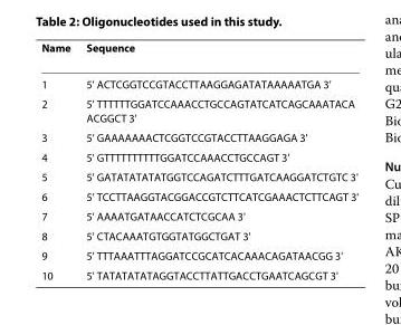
<table><thead><tr><td>Name</td><td>Sequence</td></tr></thead><tbody><tr><td>1</td><td>5&#x27; ACTCGGTCCGTACCTTAAGGAGATATAAAAATGA 3&#x27;</td></tr><tr><td>2</td><td>5&#x27; TTTTTTGGATCCAAACCTGCCAGTATCATCAGCAAATACA ACGGCT 3&#x27;</td></tr><tr><td>3</td><td>5&#x27; GAAAAAAACTCGGTCCGTACCTTAAGGAGA 3&#x27;</td></tr><tr><td>4</td><td>5&#x27; GTTTTTTTTTTGGATCCAAACCTGCCAGT 3&#x27;</td></tr><tr><td>5</td><td>5&#x27; GATATATATATGGTCCAGATCTTTGATCAAGGATCTGTC 3&#x27;</td></tr><tr><td>6</td><td>5&#x27; TCCTTAAGGTACGGACCGTCTTCATCGAAACTCTTCAGT 3&#x27;</td></tr><tr><td>7</td><td>5&#x27; AAAATGATAACCATCTCGCAA 3&#x27;</td></tr><tr><td>8</td><td>5&#x27; CTACAAATGTGGTATGGCTGAT 3&#x27;</td></tr><tr><td>9</td><td>5&#x27; TTTAAATTTAGGATCCGCATCACAAACAGATAACGG 3&#x27;</td></tr><tr><td>10</td><td>5&#x27; TATATATATAGGTACCTTATTGACCTGAATCAGCGT 3&#x27;</td></tr></tbody></table>